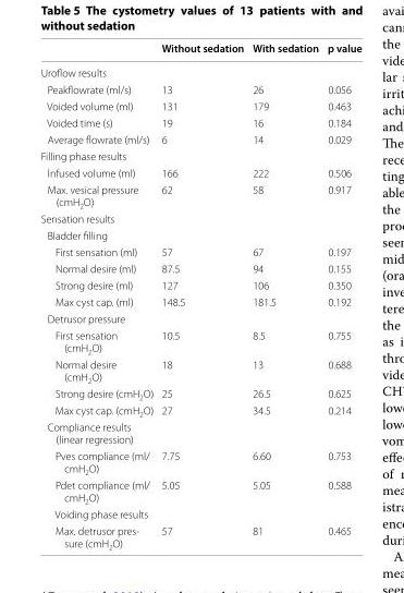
<table><thead><tr><td></td><td>Without sedation</td><td>With sedation</td><td>p value</td></tr></thead><tbody><tr><td colspan="4">Uroflow results</td></tr><tr><td>Peakflowrate (ml/s)</td><td>13</td><td>26</td><td>0.056</td></tr><tr><td>Voided volume (ml)</td><td>131</td><td>179</td><td>0.463</td></tr><tr><td>Voided time (s)</td><td>19</td><td>16</td><td>0.184</td></tr><tr><td>Average flowrate (ml/s)</td><td>6</td><td>14</td><td>0.029</td></tr><tr><td colspan="4">Filling phase results</td></tr><tr><td>İnfused volume (ml)</td><td>166</td><td>222</td><td>0.506</td></tr><tr><td>Max. vesical pressure (cmH<sub>2</sub>O)</td><td>62</td><td>58</td><td>0.917</td></tr><tr><td colspan="4">Sensation results</td></tr><tr><td colspan="4">Bladder filling</td></tr><tr><td>First sensation (ml)</td><td>57</td><td>67</td><td>0.197</td></tr><tr><td>Normal desire (ml)</td><td>87.5</td><td>94</td><td>0.155</td></tr><tr><td>Strong desire (ml)</td><td>127</td><td>106</td><td>0.350</td></tr><tr><td>Max cyst cap. (ml)</td><td>148.5</td><td>181.5</td><td>0.192</td></tr><tr><td colspan="4">Detrusor pressure</td></tr><tr><td>First sensation (cmH<sub>2</sub>O)</td><td>10.5</td><td>8.5</td><td>0.755</td></tr><tr><td>Normal desire (cmH<sub>2</sub>O)</td><td>18</td><td>13</td><td>0.688</td></tr><tr><td>Strong desire (cmH<sub>2</sub>O)</td><td>25</td><td>26.5</td><td>0.625</td></tr><tr><td>Max cyst cap. (cmH<sub>2</sub>O)</td><td>27</td><td>34.5</td><td>0.214</td></tr><tr><td colspan="4">Compliance results (linear regression)</td></tr><tr><td>Pves compliance (ml/ cmH<sub>2</sub>O)</td><td>7.75</td><td>6.60</td><td>0.753</td></tr><tr><td>Pdet compliance (ml/ cmH<sub>2</sub>O)</td><td>5.05</td><td>5.05</td><td>0.588</td></tr><tr><td colspan="4">Voiding phase results</td></tr><tr><td>Max. detrusor pres- sure (cmH2O)</td><td>57</td><td>81</td><td>0.465</td></tr></tbody></table>